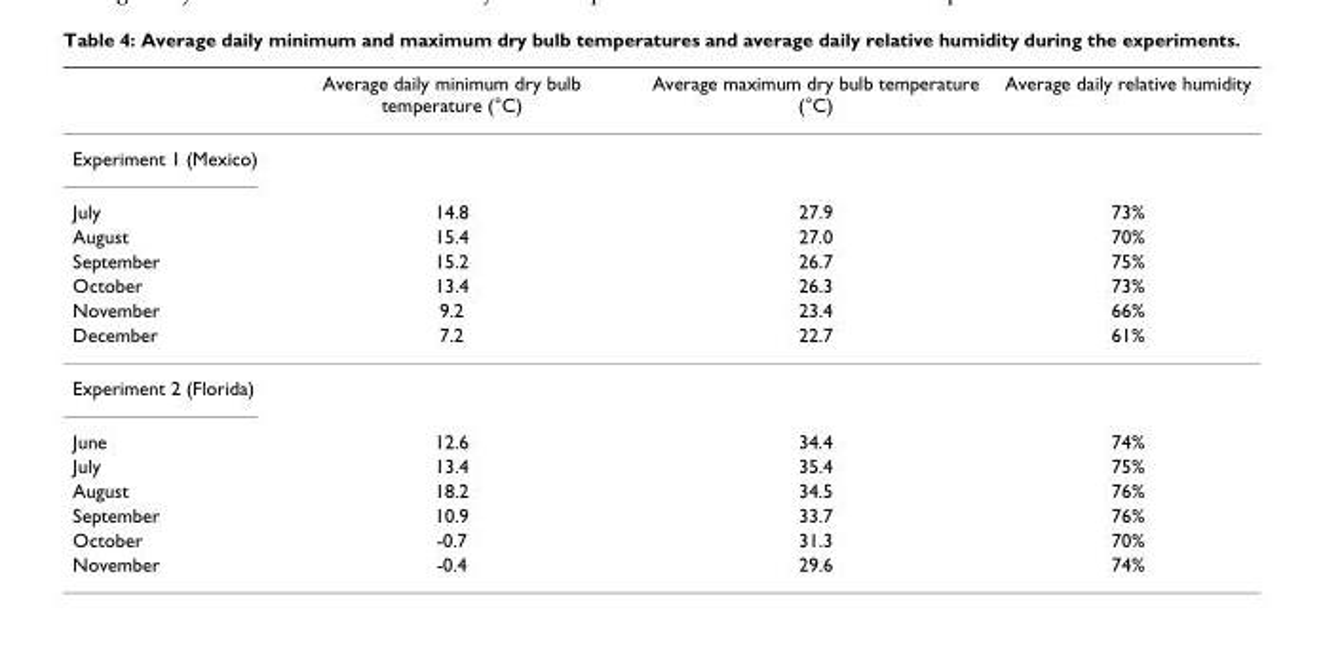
<table><thead><tr><td></td><td>Average daily minimum dry bulb temperature (°C)</td><td>Average maximum dry bulb temperature (°C)</td><td>Average daily relative humidity</td></tr></thead><tbody><tr><td colspan="4">Experiment 1 (Mexico)</td></tr><tr><td>July</td><td>14.8</td><td>27.9</td><td>73%</td></tr><tr><td>August</td><td>15.4</td><td>27.0</td><td>70%</td></tr><tr><td>September</td><td>15.2</td><td>26.7</td><td>75%</td></tr><tr><td>October</td><td>13.4</td><td>26.3</td><td>73%</td></tr><tr><td>November</td><td>9.2</td><td>23.4</td><td>66%</td></tr><tr><td>December</td><td>7.2</td><td>22.7</td><td>61%</td></tr><tr><td colspan="4">Experiment 2 (Florida)</td></tr><tr><td>June</td><td>12.6</td><td>34.4</td><td>74%</td></tr><tr><td>July</td><td>13.4</td><td>35.4</td><td>75%</td></tr><tr><td>August</td><td>18.2</td><td>34.5</td><td>76%</td></tr><tr><td>September</td><td>10.9</td><td>33.7</td><td>76%</td></tr><tr><td>October</td><td>-0.7</td><td>31.3</td><td>70%</td></tr><tr><td>November</td><td>-0.4</td><td>29.6</td><td>74%</td></tr></tbody></table>